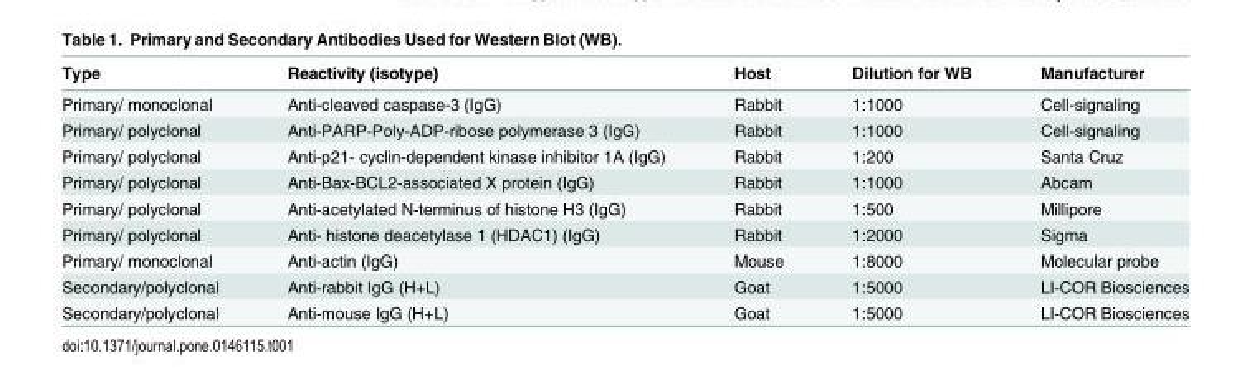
<table><thead><tr><td>Type</td><td>Reactivity (isotype)</td><td>Host</td><td>Dilution for WB</td><td>Manufacturer</td></tr></thead><tbody><tr><td>Primary/ monoclonal</td><td>Anti-cleaved caspase-3 (IgG)</td><td>Rabbit</td><td>1:1000</td><td>Cell-signaling</td></tr><tr><td>Primary/ polyclonal</td><td>Anti-PARP-Poly-ADP-ribose polymerase 3 (IgG)</td><td>Rabbit</td><td>1:1000</td><td>Cell-signaling</td></tr><tr><td>Primary/ polyclonal</td><td>Anti-p21- cyclin-dependent kinase inhibitor 1A (IgG)</td><td>Rabbit</td><td>1:200</td><td>Santa Cruz</td></tr><tr><td>Primary/ polyclonal</td><td>Anti-Bax-BCL2-associated X protein (IgG)</td><td>Rabbit</td><td>1:1000</td><td>Abcam</td></tr><tr><td>Primary/ polyclonal</td><td>Anti-acetylated N-terminus of histone H3 (IgG)</td><td>Rabbit</td><td>1:500</td><td>Millipore</td></tr><tr><td>Primary/ polyclonal</td><td>Anti- histone deacetylase 1 (HDAC1) (IgG)</td><td>Rabbit</td><td>1:2000</td><td>Sigma</td></tr><tr><td>Primary/ monoclonal</td><td>Anti-actin (IgG)</td><td>Mouse</td><td>1:8000</td><td>Molecular probe</td></tr><tr><td>Secondary/polyclonal</td><td>Anti-rabbit IgG (H+L)</td><td>Goat</td><td>1:5000</td><td>LI-COR Biosciences</td></tr><tr><td>Secondary/polyclonal</td><td>Anti-mouse IgG (H+L)</td><td>Goat</td><td>1:5000</td><td>LI-COR Biosciences</td></tr></tbody></table>